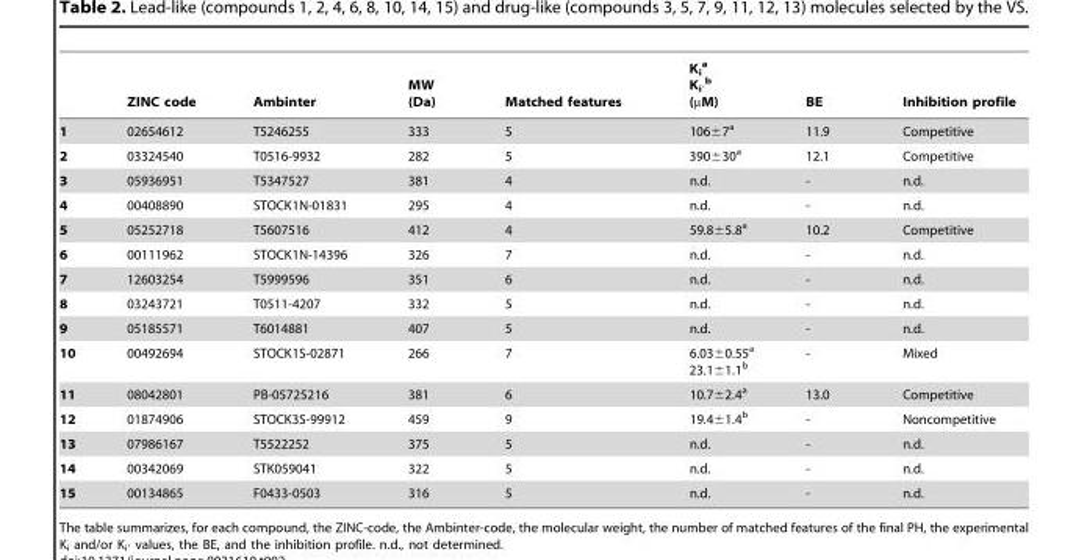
<table><thead><tr><td></td><td>ZINC code</td><td>Ambinter</td><td>MW (Da)</td><td>Matched features</td><td>K<sub>i</sub> <sup>a</sup> K<sub>i′</sub> <sup>b</sup> (µM)</td><td>BE</td><td>Inhibition profile</td></tr></thead><tbody><tr><td>1</td><td>02654612</td><td>T5246255</td><td>333</td><td>5</td><td>106±7<sup>a</sup></td><td>11.9</td><td>Competitive</td></tr><tr><td>2</td><td>03324540</td><td>T0516-9932</td><td>282</td><td>5</td><td>390±30<sup>a</sup></td><td>12.1</td><td>Competitive</td></tr><tr><td>3</td><td>05936951</td><td>T5347527</td><td>381</td><td>4</td><td>n.d.</td><td>-</td><td>n.d.</td></tr><tr><td>4</td><td>00408890</td><td>STOCK1N-01831</td><td>295</td><td>4</td><td>n.d.</td><td>-</td><td>n.d.</td></tr><tr><td>5</td><td>05252718</td><td>T5607516</td><td>412</td><td>4</td><td>59.8±5.8<sup>a</sup></td><td>10.2</td><td>Competitive</td></tr><tr><td>6</td><td>00111962</td><td>STOCK1N-14396</td><td>326</td><td>7</td><td>n.d.</td><td>-</td><td>n.d.</td></tr><tr><td>7</td><td>12603254</td><td>T5999596</td><td>351</td><td>6</td><td>n.d.</td><td>-</td><td>n.d.</td></tr><tr><td>8</td><td>03243721</td><td>T0511-4207</td><td>332</td><td>5</td><td>n.d.</td><td>-</td><td>n.d.</td></tr><tr><td>9</td><td>05185571</td><td>T6014881</td><td>407</td><td>5</td><td>n.d.</td><td>-</td><td>n.d.</td></tr><tr><td>10</td><td>00492694</td><td>STOCK1S-02871</td><td>266</td><td>7</td><td>6.03±0.55<sup>a</sup> 23.1±1.1<sup>b</sup></td><td>-</td><td>Mixed</td></tr><tr><td>11</td><td>08042801</td><td>PB-05725216</td><td>381</td><td>6</td><td>10.7±2.4<sup>a</sup></td><td>13.0</td><td>Competitive</td></tr><tr><td>12</td><td>01874906</td><td>STOCK3S-99912</td><td>459</td><td>9</td><td>19.4±1.4<sup>b</sup></td><td>-</td><td>Noncompetitive</td></tr><tr><td>13</td><td>07986167</td><td>T5522252</td><td>375</td><td>5</td><td>n.d.</td><td>-</td><td>n.d.</td></tr><tr><td>14</td><td>00342069</td><td>STK059041</td><td>322</td><td>5</td><td>n.d.</td><td>-</td><td>n.d.</td></tr><tr><td>15</td><td>00134865</td><td>F0433-0503</td><td>316</td><td>5</td><td>n.d.</td><td>-</td><td>n.d.</td></tr></tbody></table>